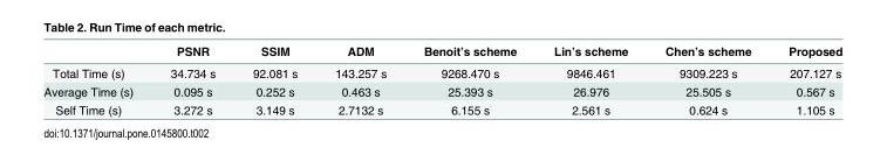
<table><thead><tr><td></td><td>PSNR</td><td>SSIM</td><td>ADM</td><td>Benoit’s scheme</td><td>Lin’s scheme</td><td>Chen’s scheme</td><td>Proposed</td></tr></thead><tbody><tr><td>Total Time (s)</td><td>34.734 s</td><td>92.081 s</td><td>143.257 s</td><td>9268.470 s</td><td>9846.461</td><td>9309.223 s</td><td>207.127 s</td></tr><tr><td>Average Time (s)</td><td>0.095 s</td><td>0.252 s</td><td>0.463 s</td><td>25.393 s</td><td>26.976</td><td>25.505 s</td><td>0.567 s</td></tr><tr><td>Self Time (s)</td><td>3.272 s</td><td>3.149 s</td><td>2.7132 s</td><td>6.155 s</td><td>2.561 s</td><td>0.624 s</td><td>1.105 s</td></tr></tbody></table>